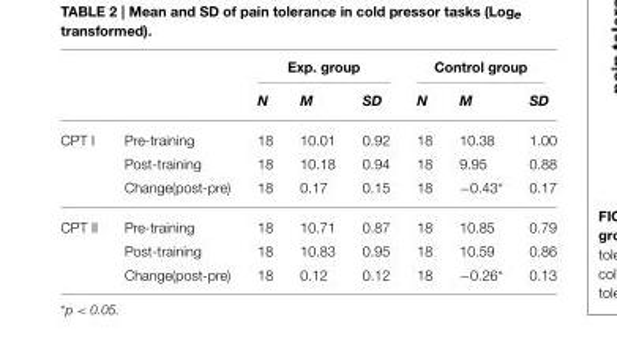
<table><thead><tr><td rowspan="2"></td><td rowspan="2"></td><td colspan="3">Exp. group</td><td colspan="3">Control group</td></tr><tr><td>N</td><td>M</td><td>SD</td><td>N</td><td>M</td><td>SD</td></tr></thead><tbody><tr><td rowspan="3">CPT I</td><td>Pre-training</td><td>18</td><td>10.01</td><td>0.92</td><td>18</td><td>10.38</td><td>1.00</td></tr><tr><td>Post-training</td><td>18</td><td>10.18</td><td>0.94</td><td>18</td><td>9.95</td><td>0.88</td></tr><tr><td>Change(post-pre)</td><td>18</td><td>0.17</td><td>0.15</td><td>18</td><td>−0.43*</td><td>0.17</td></tr><tr><td rowspan="3">CPT II</td><td>Pre-training</td><td>18</td><td>10.71</td><td>0.87</td><td>18</td><td>10.85</td><td>0.79</td></tr><tr><td>Post-training</td><td>18</td><td>10.83</td><td>0.95</td><td>18</td><td>10.59</td><td>0.86</td></tr><tr><td>Change(post-pre)</td><td>18</td><td>0.12</td><td>0.12</td><td>18</td><td>−0.26*</td><td>0.13</td></tr></tbody></table>